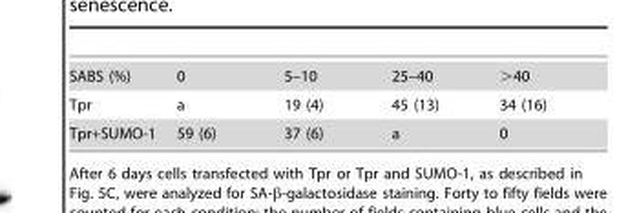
<table><tbody><tr><td>SABS (%)</td><td>0</td><td>5–10</td><td>25–40</td><td>&gt;40</td></tr><tr><td>Tpr</td><td>a</td><td>19 (4)</td><td>45 (13)</td><td>34 (16)</td></tr><tr><td>Tpr+SUMO-1</td><td>59 (6)</td><td>37 (6)</td><td>a</td><td>0</td></tr></tbody></table>